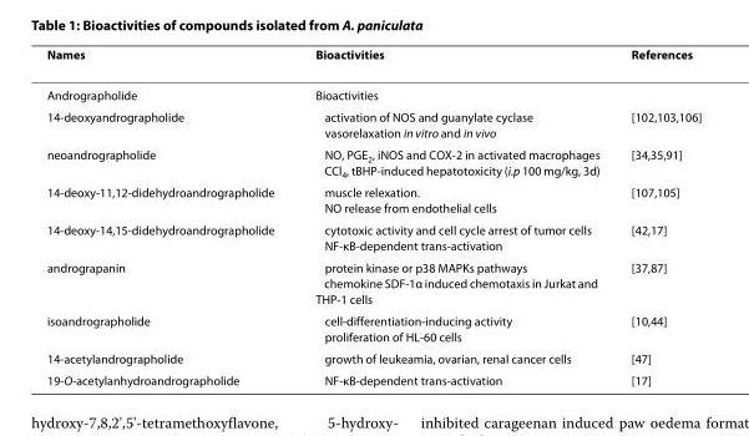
<table><thead><tr><td>Names</td><td>Bioactivities</td><td>References</td></tr></thead><tbody><tr><td>Andrographolide</td><td>Bioactivities</td><td></td></tr><tr><td>14-deoxyandrographolide</td><td>↑ activation of NOS and guanylate cyclase ↑ vasorelaxation in vitro and in vivo</td><td>[102,103,106]</td></tr><tr><td>neoandrographolide</td><td>↓ NO, PGE<sub>2</sub>, iNOS and COX-2 in activated macrophages ↓ CCl<sub>4</sub>, tBHP-induced hepatotoxicity (i.p 100 mg/kg, 3d)</td><td>[34,35,91]</td></tr><tr><td>14-deoxy-11,12-didehydroandrographolide</td><td>↑ muscle relexation. ↑ NO release from endothelial cells</td><td>[107,105]</td></tr><tr><td>14-deoxy-14,15-didehydroandrographolide</td><td>↑ cytotoxic activity and cell cycle arrest of tumor cells ↓ NF-κB-dependent trans-activation</td><td>[42,17]</td></tr><tr><td>andrograpanin</td><td>↑ protein kinase or p38 MAPKs pathways ↑ chemokine SDF-1α induced chemotaxis in Jurkat and THP-1 cells</td><td>[37,87]</td></tr><tr><td>isoandrographolide</td><td>↑ cell-differentiation-inducing activity ↓ proliferation of HL-60 cells</td><td>[10,44]</td></tr><tr><td>14-acetylandrographolide</td><td>↓ growth of leukeamia, ovarian, renal cancer cells</td><td>[47]</td></tr><tr><td>19-O-acetylanhydroandrographolide</td><td>↓ NF-κB-dependent trans-activation</td><td>[17]</td></tr></tbody></table>